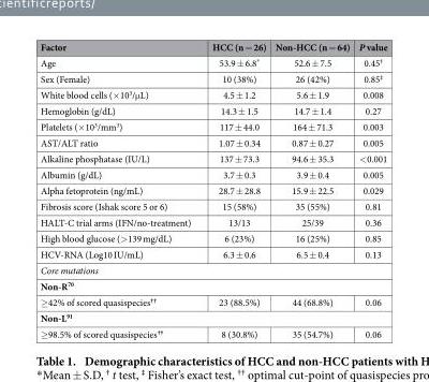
<table><thead><tr><td>Factor</td><td>HCC (n = 26)</td><td>Non-HCC (n = 64)</td><td>P value</td></tr></thead><tbody><tr><td>Age</td><td>53.9 ± 6.8*</td><td>52.6 ± 7.5</td><td>0.45<sup>†</sup></td></tr><tr><td>Sex (Female)</td><td>10 (38%)</td><td>26 (42%)</td><td>0.85<sup>‡</sup></td></tr><tr><td>White blood cells (× 10<sup>3</sup>/μ L)</td><td>4.5 ± 1.2</td><td>5.6 ± 1.9</td><td>0.008</td></tr><tr><td>Hemoglobin (g/dL)</td><td>14.3 ± 1.5</td><td>14.7 ± 1.4</td><td>0.27</td></tr><tr><td>Platelets (× 10<sup>3</sup>/mm<sup>3</sup>)</td><td>117 ± 44.0</td><td>164 ± 71.3</td><td>0.003</td></tr><tr><td>AST/ALT ratio</td><td>1.07 ± 0.34</td><td>0.87 ± 0.27</td><td>0.005</td></tr><tr><td>Alkaline phosphatase (IU/L)</td><td>137 ± 73.3</td><td>94.6 ± 35.3</td><td>&lt; 0.001</td></tr><tr><td>Albumin (g/dL)</td><td>3.7 ± 0.3</td><td>3.9 ± 0.4</td><td>0.005</td></tr><tr><td>Alpha fetoprotein (ng/mL)</td><td>28.7 ± 28.8</td><td>15.9 ± 22.5</td><td>0.029</td></tr><tr><td>Fibrosis score (Ishak score 5 or 6)</td><td>15 (58%)</td><td>35 (55%)</td><td>0.81</td></tr><tr><td>HALT-C trial arms (IFN/no-treatment)</td><td>13/13</td><td>25/39</td><td>0.36</td></tr><tr><td>High blood glucose (&gt; 139 mg/dL)</td><td>6 (23%)</td><td>16 (25%)</td><td>0.85</td></tr><tr><td>HCV-RNA (Log10 IU/mL)</td><td>6.3 ± 0.6</td><td>6.5 ± 0.4</td><td>0.13</td></tr><tr><td colspan="4">Core mutations</td></tr><tr><td colspan="4">Non-R<sup>70</sup></td></tr><tr><td>≥ 42% of scored quasispecies<sup>††</sup></td><td>23 (88.5%)</td><td>44 (68.8%)</td><td>0.06</td></tr><tr><td colspan="4">Non-L<sup>91</sup></td></tr><tr><td>≥ 98.5% of scored quasispecies<sup>††</sup></td><td>8 (30.8%)</td><td>35 (54.7%)</td><td>0.06</td></tr></tbody></table>